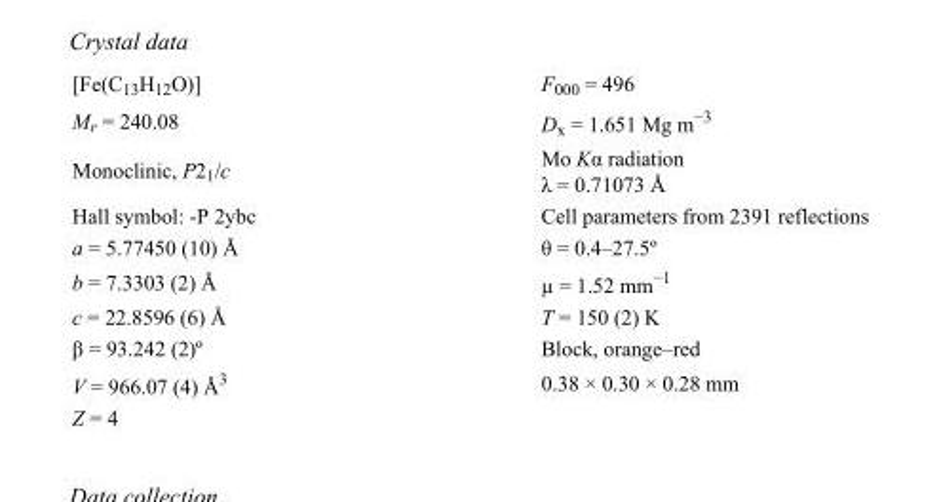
<table><tbody><tr><td>[Fe(C<sub>13</sub>H<sub>12</sub>O)]</td><td>F<sub>000</sub> = 496</td></tr><tr><td>M<sub>r</sub> = 240.08</td><td>D<sub>x</sub> = 1.651 Mg m<sup>−3</sup></td></tr><tr><td>Monoclinic, P2<sub>1</sub>/c</td><td>Mo Kα radiation λ = 0.71073 Å</td></tr><tr><td>Hall symbol: -P 2ybc</td><td>Cell parameters from 2391 reflections</td></tr><tr><td>a = 5.77450 (10) Å</td><td>θ = 0.4–27.5º</td></tr><tr><td>b = 7.3303 (2) Å</td><td>µ = 1.52 mm<sup>−1</sup></td></tr><tr><td>c = 22.8596 (6) Å</td><td>T = 150 (2) K</td></tr><tr><td>β = 93.242 (2)º</td><td>Block, orange–red</td></tr><tr><td>V = 966.07 (4) Å<sup>3</sup></td><td>0.38 × 0.30 × 0.28 mm</td></tr><tr><td>Z = 4</td><td></td></tr></tbody></table>